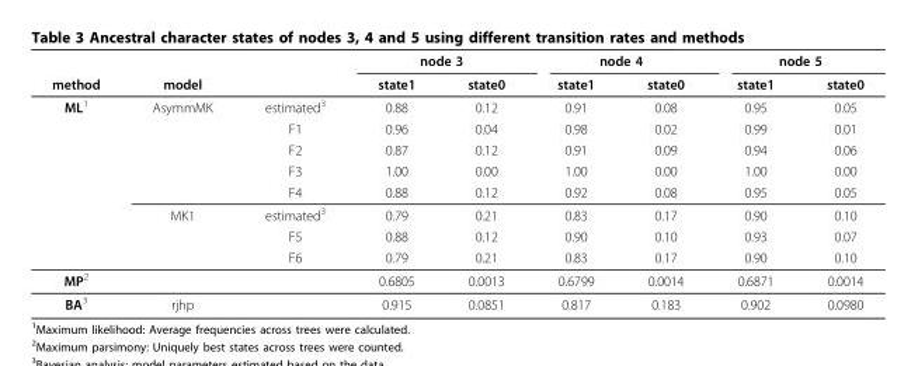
<table><thead><tr><td rowspan="2">method</td><td rowspan="2">model</td><td rowspan="2"></td><td colspan="2">node 3</td><td colspan="2">node 4</td><td colspan="2">node 5</td></tr><tr><td>state1</td><td>state0</td><td>state1</td><td>state0</td><td>state1</td><td>state0</td></tr></thead><tbody><tr><td rowspan="8">ML<sup>1</sup></td><td>AsymmMK</td><td>estimated<sup>3</sup></td><td>0.88</td><td>0.12</td><td>0.91</td><td>0.08</td><td>0.95</td><td>0.05</td></tr><tr><td></td><td>F1</td><td>0.96</td><td>0.04</td><td>0.98</td><td>0.02</td><td>0.99</td><td>0.01</td></tr><tr><td></td><td>F2</td><td>0.87</td><td>0.12</td><td>0.91</td><td>0.09</td><td>0.94</td><td>0.06</td></tr><tr><td></td><td>F3</td><td>1.00</td><td>0.00</td><td>1.00</td><td>0.00</td><td>1.00</td><td>0.00</td></tr><tr><td></td><td>F4</td><td>0.88</td><td>0.12</td><td>0.92</td><td>0.08</td><td>0.95</td><td>0.05</td></tr><tr><td>MK1</td><td>estimated<sup>3</sup></td><td>0.79</td><td>0.21</td><td>0.83</td><td>0.17</td><td>0.90</td><td>0.10</td></tr><tr><td></td><td>F5</td><td>0.88</td><td>0.12</td><td>0.90</td><td>0.10</td><td>0.93</td><td>0.07</td></tr><tr><td></td><td>F6</td><td>0.79</td><td>0.21</td><td>0.83</td><td>0.17</td><td>0.90</td><td>0.10</td></tr><tr><td>MP<sup>2</sup></td><td></td><td></td><td>0.6805</td><td>0.0013</td><td>0.6799</td><td>0.0014</td><td>0.6871</td><td>0.0014</td></tr><tr><td>BA<sup>3</sup></td><td>rjhp</td><td></td><td>0.915</td><td>0.0851</td><td>0.817</td><td>0.183</td><td>0.902</td><td>0.0980</td></tr></tbody></table>